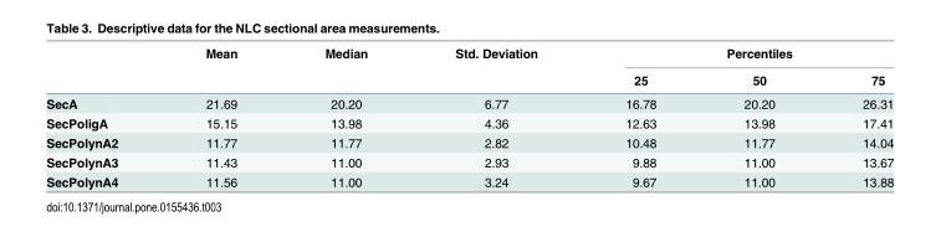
<table><thead><tr><td rowspan="2"></td><td rowspan="2">Mean</td><td rowspan="2">Median</td><td rowspan="2">Std. Deviation</td><td colspan="3">Percentiles</td></tr><tr><td>25</td><td>50</td><td>75</td></tr></thead><tbody><tr><td>SecA</td><td>21.69</td><td>20.20</td><td>6.77</td><td>16.78</td><td>20.20</td><td>26.31</td></tr><tr><td>SecPoligA</td><td>15.15</td><td>13.98</td><td>4.36</td><td>12.63</td><td>13.98</td><td>17.41</td></tr><tr><td>SecPolynA2</td><td>11.77</td><td>11.77</td><td>2.82</td><td>10.48</td><td>11.77</td><td>14.04</td></tr><tr><td>SecPolynA3</td><td>11.43</td><td>11.00</td><td>2.93</td><td>9.88</td><td>11.00</td><td>13.67</td></tr><tr><td>SecPolynA4</td><td>11.56</td><td>11.00</td><td>3.24</td><td>9.67</td><td>11.00</td><td>13.88</td></tr></tbody></table>